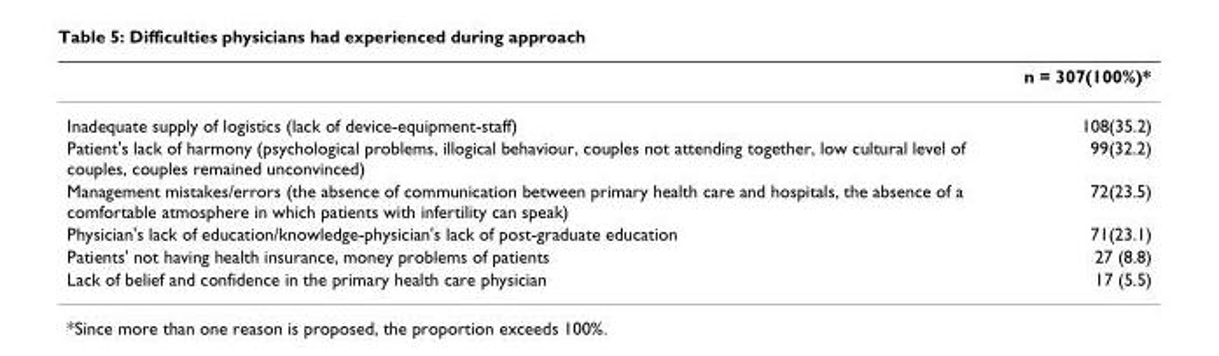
<table><thead><tr><td></td><td>n = 307(100%)*</td></tr></thead><tbody><tr><td>Inadequate supply of logistics (lack of device-equipment-staff)</td><td>108(35.2)</td></tr><tr><td>Patient&#x27;s lack of harmony (psychological problems, illogical behaviour, couples not attending together, low cultural level of couples, couples remained unconvinced)</td><td>99(32.2)</td></tr><tr><td>Management mistakes/errors (the absence of communication between primary health care and hospitals, the absence of a comfortable atmosphere in which patients with infertility can speak)</td><td>72(23.5)</td></tr><tr><td>Physician&#x27;s lack of education/knowledge-physician&#x27;s lack of post-graduate education</td><td>71(23.1)</td></tr><tr><td>Patients&#x27; not having health insurance, money problems of patients</td><td>27 (8.8)</td></tr><tr><td>Lack of belief and confidence in the primary health care physician</td><td>17 (5.5)</td></tr></tbody></table>